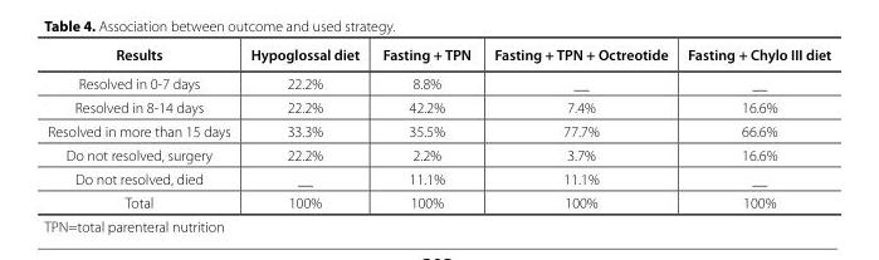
<table><thead><tr><td>Results</td><td>Hypoglossal diet</td><td>Fasting + TPN</td><td>Fasting + TPN + Octreotide</td><td>Fasting + Chylo III diet</td></tr></thead><tbody><tr><td>Resolved in 0-7 days</td><td>22.2%</td><td>8.8%</td><td>__</td><td>__</td></tr><tr><td>Resolved in 8-14 days</td><td>22.2%</td><td>42.2%</td><td>7.4%</td><td>16.6%</td></tr><tr><td>Resolved in more than 15 days</td><td>33.3%</td><td>35.5%</td><td>77.7%</td><td>66.6%</td></tr><tr><td>Do not resolved, surgery</td><td>22.2%</td><td>2.2%</td><td>3.7%</td><td>16.6%</td></tr><tr><td>Do not resolved, died</td><td>__</td><td>11.1%</td><td>11.1%</td><td>__</td></tr><tr><td>Total</td><td>100%</td><td>100%</td><td>100%</td><td>100%</td></tr></tbody></table>